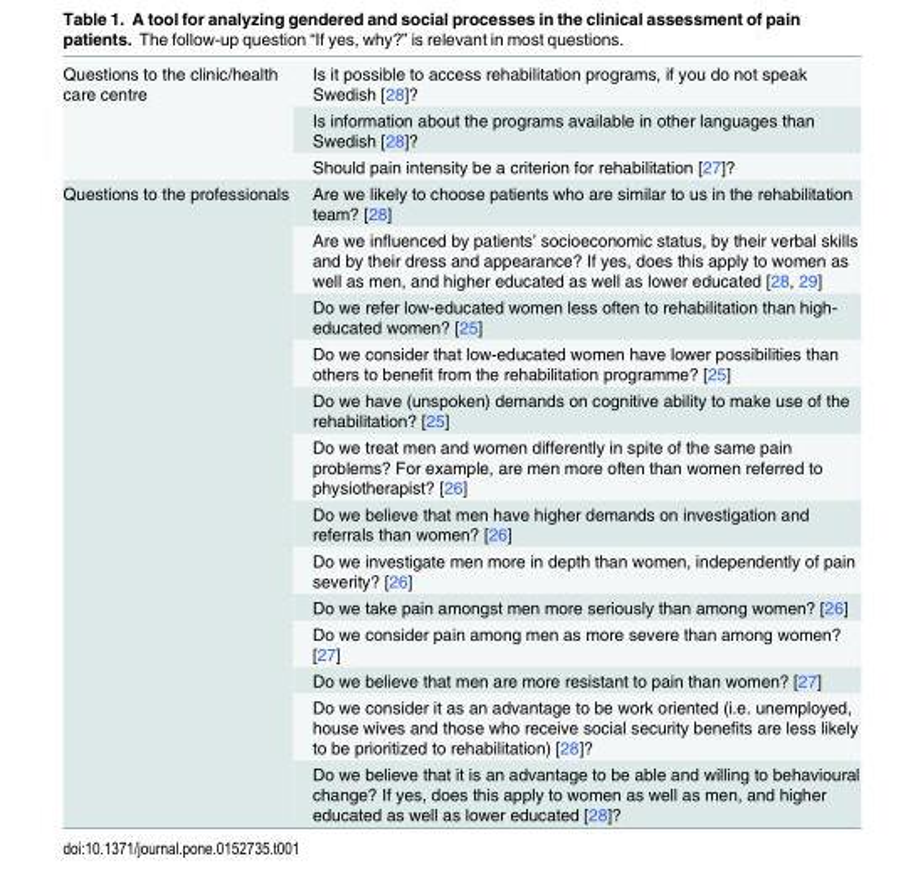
<table><tbody><tr><td rowspan="3">Questions to the clinic/health care centre</td><td>Is it possible to access rehabilitation programs, if you do not speak Swedish [28]?</td></tr><tr><td>Is information about the programs available in other languages than Swedish [28]?</td></tr><tr><td>Should pain intensity be a criterion for rehabilitation [27]?</td></tr><tr><td rowspan="13">Questions to the professionals</td><td>Are we likely to choose patients who are similar to us in the rehabilitation team? [28]</td></tr><tr><td>Are we influenced by patients’ socioeconomic status, by their verbal skills and by their dress and appearance? If yes, does this apply to women as well as men, and higher educated as well as lower educated [28, 29]</td></tr><tr><td>Do we refer low-educated women less often to rehabilitation than high- educated women? [25]</td></tr><tr><td>Do we consider that low-educated women have lower possibilities than others to benefit from the rehabilitation programme? [25]</td></tr><tr><td>Do we have (unspoken) demands on cognitive ability to make use of the rehabilitation? [25]</td></tr><tr><td>Do we treat men and women differently in spite of the same pain problems? For example, are men more often than women referred to physiotherapist? [26]</td></tr><tr><td>Do we believe that men have higher demands on investigation and referrals than women? [26]</td></tr><tr><td>Do we investigate men more in depth than women, independently of pain severity? [26]</td></tr><tr><td>Do we take pain amongst men more seriously than among women? [26]</td></tr><tr><td>Do we consider pain among men as more severe than among women? [27]</td></tr><tr><td>Do we believe that men are more resistant to pain than women? [27]</td></tr><tr><td>Do we consider it as an advantage to be work oriented (i.e. unemployed, house wives and those who receive social security benefits are less likely to be prioritized to rehabilitation) [28]?</td></tr><tr><td>Do we believe that it is an advantage to be able and willing to behavioural change? If yes, does this apply to women as well as men, and higher educated as well as lower educated [28]?</td></tr></tbody></table>